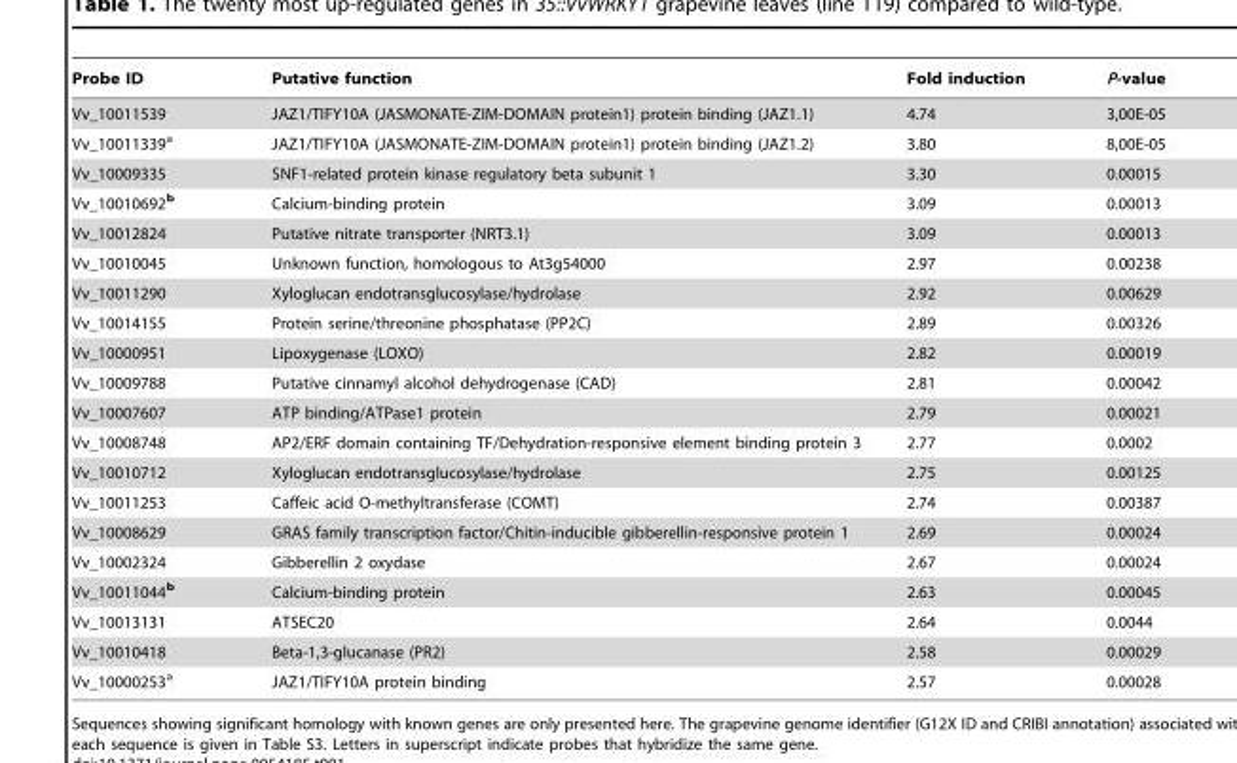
<table><thead><tr><td>Probe ID</td><td>Putative function</td><td>Fold induction</td><td>P-value</td></tr></thead><tbody><tr><td>Vv_10011539</td><td>JAZ1/TIFY10A (JASMONATE-ZIM-DOMAIN protein1) protein binding (JAZ1.1)</td><td>4.74</td><td>3,00E-05</td></tr><tr><td>Vv_10011339<sup>a</sup></td><td>JAZ1/TIFY10A (JASMONATE-ZIM-DOMAIN protein1) protein binding (JAZ1.2)</td><td>3.80</td><td>8,00E-05</td></tr><tr><td>Vv_10009335</td><td>SNF1-related protein kinase regulatory beta subunit 1</td><td>3.30</td><td>0.00015</td></tr><tr><td>Vv_10010692<sup>b</sup></td><td>Calcium-binding protein</td><td>3.09</td><td>0.00013</td></tr><tr><td>Vv_10012824</td><td>Putative nitrate transporter (NRT3.1)</td><td>3.09</td><td>0.00013</td></tr><tr><td>Vv_10010045</td><td>Unknown function, homologous to At3g54000</td><td>2.97</td><td>0.00238</td></tr><tr><td>Vv_10011290</td><td>Xyloglucan endotransglucosylase/hydrolase</td><td>2.92</td><td>0.00629</td></tr><tr><td>Vv_10014155</td><td>Protein serine/threonine phosphatase (PP2C)</td><td>2.89</td><td>0.00326</td></tr><tr><td>Vv_10000951</td><td>Lipoxygenase (LOXO)</td><td>2.82</td><td>0.00019</td></tr><tr><td>Vv_10009788</td><td>Putative cinnamyl alcohol dehydrogenase (CAD)</td><td>2.81</td><td>0.00042</td></tr><tr><td>Vv_10007607</td><td>ATP binding/ATPase1 protein</td><td>2.79</td><td>0.00021</td></tr><tr><td>Vv_10008748</td><td>AP2/ERF domain containing TF/Dehydration-responsive element binding protein 3</td><td>2.77</td><td>0.0002</td></tr><tr><td>Vv_10010712</td><td>Xyloglucan endotransglucosylase/hydrolase</td><td>2.75</td><td>0.00125</td></tr><tr><td>Vv_10011253</td><td>Caffeic acid O-methyltransferase (COMT)</td><td>2.74</td><td>0.00387</td></tr><tr><td>Vv_10008629</td><td>GRAS family transcription factor/Chitin-inducible gibberellin-responsive protein 1</td><td>2.69</td><td>0.00024</td></tr><tr><td>Vv_10002324</td><td>Gibberellin 2 oxydase</td><td>2.67</td><td>0.00024</td></tr><tr><td>Vv_10011044<sup>b</sup></td><td>Calcium-binding protein</td><td>2.63</td><td>0.00045</td></tr><tr><td>Vv_10013131</td><td>ATSEC20</td><td>2.64</td><td>0.0044</td></tr><tr><td>Vv_10010418</td><td>Beta-1,3-glucanase (PR2)</td><td>2.58</td><td>0.00029</td></tr><tr><td>Vv_10000253<sup>a</sup></td><td>JAZ1/TIFY10A protein binding</td><td>2.57</td><td>0.00028</td></tr></tbody></table>